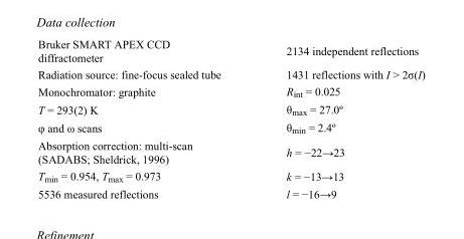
<table><tbody><tr><td>Bruker SMART APEX CCD diffractometer</td><td>2134 independent reflections</td></tr><tr><td>Radiation source: fine-focus sealed tube</td><td>1431 reflections with I &gt; 2σ(I)</td></tr><tr><td>Monochromator: graphite</td><td>R<sub>int</sub> = 0.025</td></tr><tr><td>T = 293(2) K</td><td>θ<sub>max</sub> = 27.0º</td></tr><tr><td>φ and ω scans</td><td>θ<sub>min</sub> = 2.4º</td></tr><tr><td>Absorption correction: multi-scan (SADABS; Sheldrick, 1996)</td><td>h = −22→23</td></tr><tr><td>T<sub>min</sub> = 0.954, T<sub>max</sub> = 0.973</td><td>k = −13→13</td></tr><tr><td>5536 measured reflections</td><td>l = −16→9</td></tr></tbody></table>